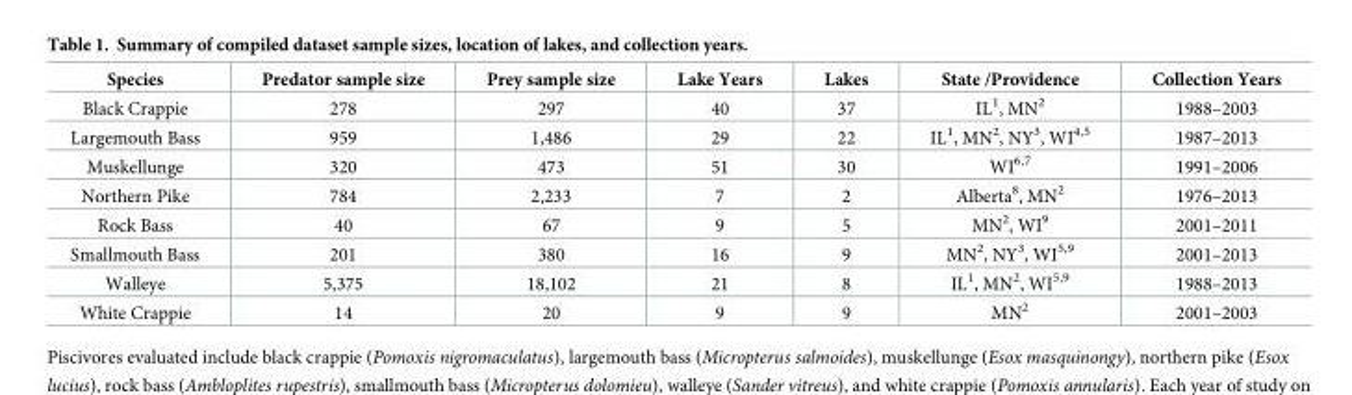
<table><thead><tr><td>Species</td><td>Predator sample size</td><td>Prey sample size</td><td>Lake Years</td><td>Lakes</td><td>State /Providence</td><td>Collection Years</td></tr></thead><tbody><tr><td>Black Crappie</td><td>278</td><td>297</td><td>40</td><td>37</td><td>IL<sup>1</sup>, MN<sup>2</sup></td><td>1988–2003</td></tr><tr><td>Largemouth Bass</td><td>959</td><td>1,486</td><td>29</td><td>22</td><td>IL<sup>1</sup>, MN<sup>2</sup>, NY<sup>3</sup>, WI<sup>4,5</sup></td><td>1987–2013</td></tr><tr><td>Muskellunge</td><td>320</td><td>473</td><td>51</td><td>30</td><td>WI<sup>6,7</sup></td><td>1991–2006</td></tr><tr><td>Northern Pike</td><td>784</td><td>2,233</td><td>7</td><td>2</td><td>Alberta<sup>8</sup>, MN<sup>2</sup></td><td>1976–2013</td></tr><tr><td>Rock Bass</td><td>40</td><td>67</td><td>9</td><td>5</td><td>MN<sup>2</sup>, WI<sup>9</sup></td><td>2001–2011</td></tr><tr><td>Smallmouth Bass</td><td>201</td><td>380</td><td>16</td><td>9</td><td>MN<sup>2</sup>, NY<sup>3</sup>, WI<sup>5,9</sup></td><td>2001–2013</td></tr><tr><td>Walleye</td><td>5,375</td><td>18,102</td><td>21</td><td>8</td><td>IL<sup>1</sup>, MN<sup>2</sup>, WI<sup>5,9</sup></td><td>1988–2013</td></tr><tr><td>White Crappie</td><td>14</td><td>20</td><td>9</td><td>9</td><td>MN<sup>2</sup></td><td>2001–2003</td></tr></tbody></table>